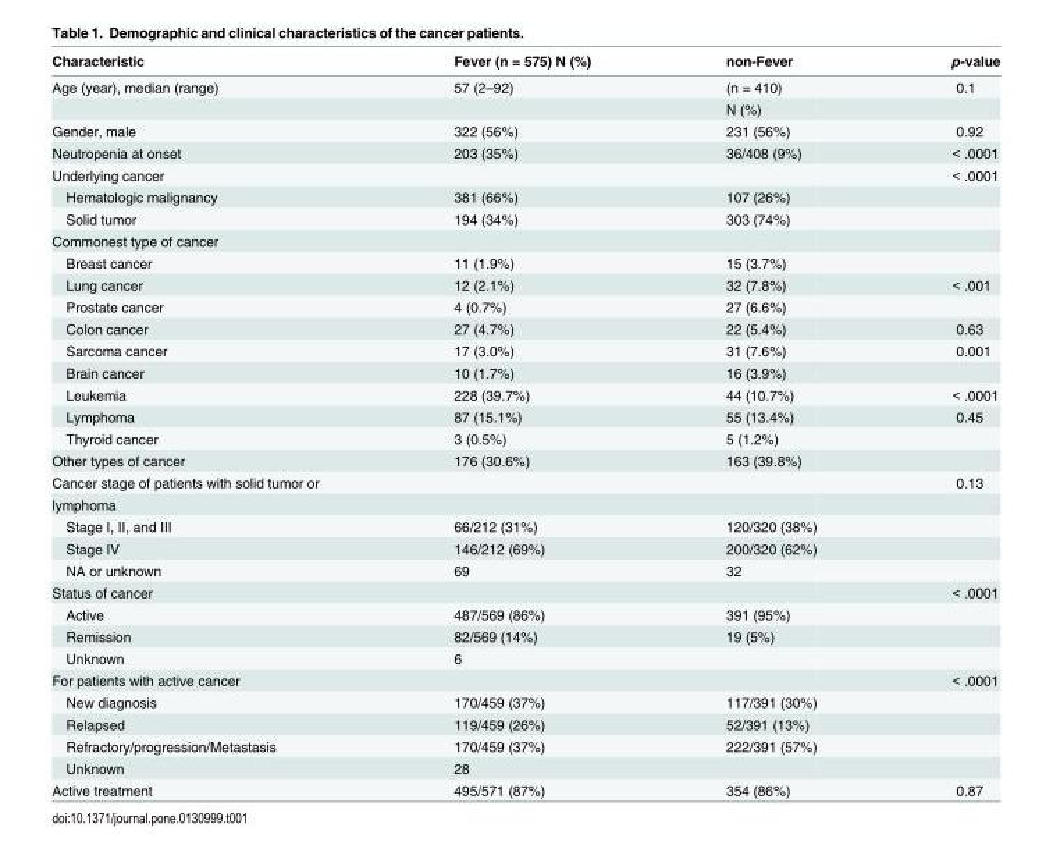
<table><thead><tr><td>Characteristic</td><td>Fever (n = 575) N (%)</td><td>non-Fever</td><td>p-value</td></tr></thead><tbody><tr><td rowspan="2">Age (year), median (range)</td><td>57 (2–92)</td><td>(n = 410)</td><td>0.1</td></tr><tr><td></td><td>N (%)</td><td></td></tr><tr><td>Gender, male</td><td>322 (56%)</td><td>231 (56%)</td><td>0.92</td></tr><tr><td>Neutropenia at onset</td><td>203 (35%)</td><td>36/408 (9%)</td><td>&lt; .0001</td></tr><tr><td>Underlying cancer</td><td></td><td></td><td>&lt; .0001</td></tr><tr><td>Hematologic malignancy</td><td>381 (66%)</td><td>107 (26%)</td><td></td></tr><tr><td>Solid tumor</td><td>194 (34%)</td><td>303 (74%)</td><td></td></tr><tr><td colspan="4">Commonest type of cancer</td></tr><tr><td>Breast cancer</td><td>11 (1.9%)</td><td>15 (3.7%)</td><td></td></tr><tr><td>Lung cancer</td><td>12 (2.1%)</td><td>32 (7.8%)</td><td>&lt; .001</td></tr><tr><td>Prostate cancer</td><td>4 (0.7%)</td><td>27 (6.6%)</td><td></td></tr><tr><td>Colon cancer</td><td>27 (4.7%)</td><td>22 (5.4%)</td><td>0.63</td></tr><tr><td>Sarcoma cancer</td><td>17 (3.0%)</td><td>31 (7.6%)</td><td>0.001</td></tr><tr><td>Brain cancer</td><td>10 (1.7%)</td><td>16 (3.9%)</td><td></td></tr><tr><td>Leukemia</td><td>228 (39.7%)</td><td>44 (10.7%)</td><td>&lt; .0001</td></tr><tr><td>Lymphoma</td><td>87 (15.1%)</td><td>55 (13.4%)</td><td>0.45</td></tr><tr><td>Thyroid cancer</td><td>3 (0.5%)</td><td>5 (1.2%)</td><td></td></tr><tr><td>Other types of cancer</td><td>176 (30.6%)</td><td>163 (39.8%)</td><td></td></tr><tr><td>Cancer stage of patients with solid tumor or</td><td></td><td></td><td>0.13</td></tr><tr><td colspan="4">lymphoma</td></tr><tr><td>Stage I, II, and III</td><td>66/212 (31%)</td><td>120/320 (38%)</td><td></td></tr><tr><td>Stage IV</td><td>146/212 (69%)</td><td>200/320 (62%)</td><td></td></tr><tr><td>NA or unknown</td><td>69</td><td>32</td><td></td></tr><tr><td>Status of cancer</td><td></td><td></td><td>&lt; .0001</td></tr><tr><td>Active</td><td>487/569 (86%)</td><td>391 (95%)</td><td></td></tr><tr><td>Remission</td><td>82/569 (14%)</td><td>19 (5%)</td><td></td></tr><tr><td>Unknown</td><td>6</td><td></td><td></td></tr><tr><td>For patients with active cancer</td><td></td><td></td><td>&lt; .0001</td></tr><tr><td>New diagnosis</td><td>170/459 (37%)</td><td>117/391 (30%)</td><td></td></tr><tr><td>Relapsed</td><td>119/459 (26%)</td><td>52/391 (13%)</td><td></td></tr><tr><td>Refractory/progression/Metastasis</td><td>170/459 (37%)</td><td>222/391 (57%)</td><td></td></tr><tr><td>Unknown</td><td>28</td><td></td><td></td></tr><tr><td>Active treatment</td><td>495/571 (87%)</td><td>354 (86%)</td><td>0.87</td></tr></tbody></table>